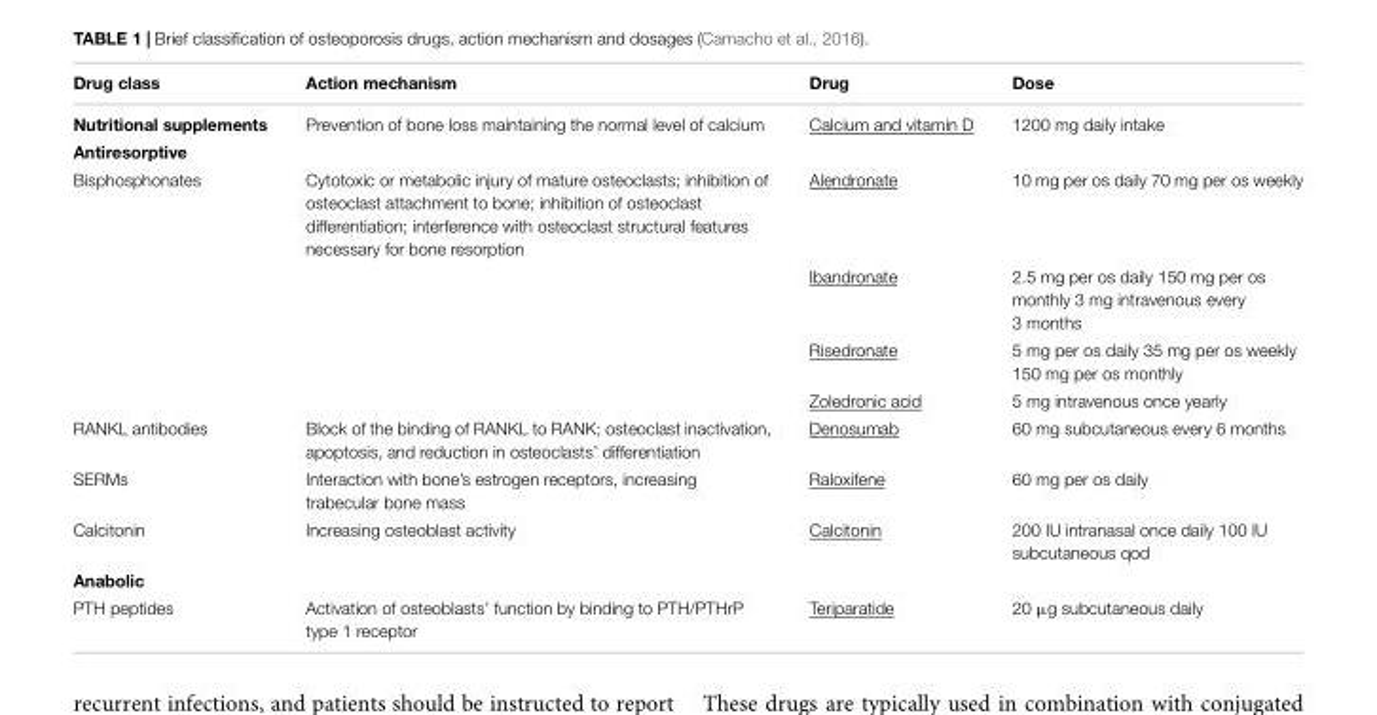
<table><thead><tr><td>Drug class</td><td>Action mechanism</td><td>Drug</td><td>Dose</td></tr></thead><tbody><tr><td>Nutritional supplements</td><td>Prevention of bone loss maintaining the normal level of calcium</td><td>Calcium and vitamin D</td><td>1200 mg daily intake</td></tr><tr><td colspan="4">Antiresorptive</td></tr><tr><td rowspan="4">Bisphosphonates</td><td>Cytotoxic or metabolic injury of mature osteoclasts; inhibition of osteoclast attachment to bone; inhibition of osteoclast differentiation; interference with osteoclast structural features necessary for bone resorption</td><td>Alendronate</td><td>10 mg per os daily 70 mg per os weekly</td></tr><tr><td></td><td>Ibandronate</td><td>2.5 mg per os daily 150 mg per os monthly 3 mg intravenous every 3 months</td></tr><tr><td></td><td>Risedronate</td><td>5 mg per os daily 35 mg per os weekly 150 mg per os monthly</td></tr><tr><td></td><td>Zoledronic acid</td><td>5 mg intravenous once yearly</td></tr><tr><td>RANKL antibodies</td><td>Block of the binding of RANKL to RANK; osteoclast inactivation, apoptosis, and reduction in osteoclasts’ differentiation</td><td>Denosumab</td><td>60 mg subcutaneous every 6 months</td></tr><tr><td>SERMs</td><td>Interaction with bone’s estrogen receptors, increasing trabecular bone mass</td><td>Raloxifene</td><td>60 mg per os daily</td></tr><tr><td>Calcitonin</td><td>Increasing osteoblast activity</td><td>Calcitonin</td><td>200 IU intranasal once daily 100 IU subcutaneous qod</td></tr><tr><td colspan="4">Anabolic</td></tr><tr><td>PTH peptides</td><td>Activation of osteoblasts’ function by binding to PTH/PTHrP type 1 receptor</td><td>Teriparatide</td><td>20 µg subcutaneous daily</td></tr></tbody></table>